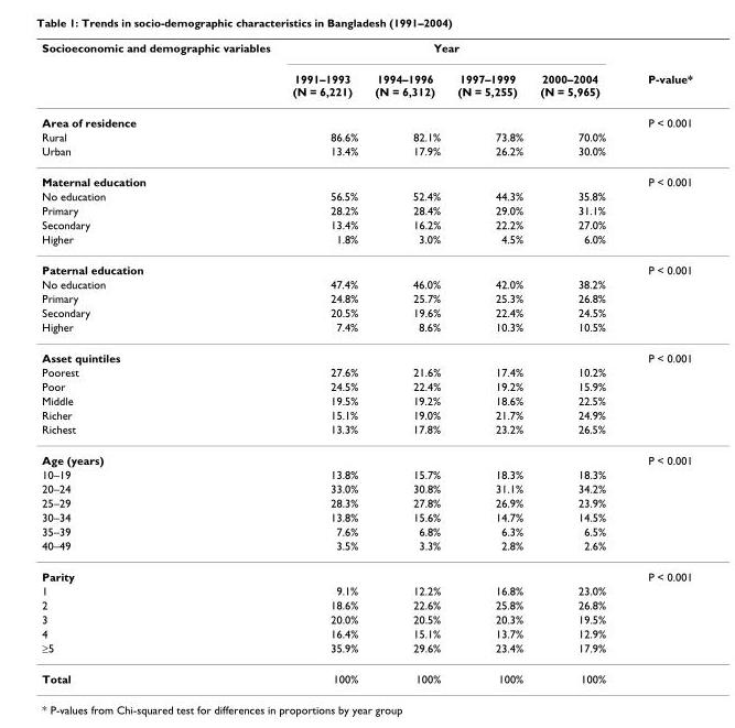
<table><thead><tr><td rowspan="2">Socioeconomic and demographic variables</td><td colspan="4">Year</td><td rowspan="2">P-value*</td></tr><tr><td>1991–1993 (N = 6,221)</td><td>1994–1996 (N = 6,312)</td><td>1997–1999 (N = 5,255)</td><td>2000–2004 (N = 5,965)</td></tr></thead><tbody><tr><td>Area of residence</td><td></td><td></td><td></td><td></td><td>P &lt; 0.001</td></tr><tr><td>Rural</td><td>86.6%</td><td>82.1%</td><td>73.8%</td><td>70.0%</td><td></td></tr><tr><td>Urban</td><td>13.4%</td><td>17.9%</td><td>26.2%</td><td>30.0%</td><td></td></tr><tr><td>Maternal education</td><td></td><td></td><td></td><td></td><td>P &lt; 0.001</td></tr><tr><td>No education</td><td>56.5%</td><td>52.4%</td><td>44.3%</td><td>35.8%</td><td></td></tr><tr><td>Primary</td><td>28.2%</td><td>28.4%</td><td>29.0%</td><td>31.1%</td><td></td></tr><tr><td>Secondary</td><td>13.4%</td><td>16.2%</td><td>22.2%</td><td>27.0%</td><td></td></tr><tr><td>Higher</td><td>1.8%</td><td>3.0%</td><td>4.5%</td><td>6.0%</td><td></td></tr><tr><td>Paternal education</td><td></td><td></td><td></td><td></td><td>P &lt; 0.001</td></tr><tr><td>No education</td><td>47.4%</td><td>46.0%</td><td>42.0%</td><td>38.2%</td><td></td></tr><tr><td>Primary</td><td>24.8%</td><td>25.7%</td><td>25.3%</td><td>26.8%</td><td></td></tr><tr><td>Secondary</td><td>20.5%</td><td>19.6%</td><td>22.4%</td><td>24.5%</td><td></td></tr><tr><td>Higher</td><td>7.4%</td><td>8.6%</td><td>10.3%</td><td>10.5%</td><td></td></tr><tr><td>Asset quintiles</td><td></td><td></td><td></td><td></td><td>P &lt; 0.001</td></tr><tr><td>Poorest</td><td>27.6%</td><td>21.6%</td><td>17.4%</td><td>10.2%</td><td></td></tr><tr><td>Poor</td><td>24.5%</td><td>22.4%</td><td>19.2%</td><td>15.9%</td><td></td></tr><tr><td>Middle</td><td>19.5%</td><td>19.2%</td><td>18.6%</td><td>22.5%</td><td></td></tr><tr><td>Richer</td><td>15.1%</td><td>19.0%</td><td>21.7%</td><td>24.9%</td><td></td></tr><tr><td>Richest</td><td>13.3%</td><td>17.8%</td><td>23.2%</td><td>26.5%</td><td></td></tr><tr><td>Age (years)</td><td></td><td></td><td></td><td></td><td>P &lt; 0.001</td></tr><tr><td>10–19</td><td>13.8%</td><td>15.7%</td><td>18.3%</td><td>18.3%</td><td></td></tr><tr><td>20–24</td><td>33.0%</td><td>30.8%</td><td>31.1%</td><td>34.2%</td><td></td></tr><tr><td>25–29</td><td>28.3%</td><td>27.8%</td><td>26.9%</td><td>23.9%</td><td></td></tr><tr><td>30–34</td><td>13.8%</td><td>15.6%</td><td>14.7%</td><td>14.5%</td><td></td></tr><tr><td>35–39</td><td>7.6%</td><td>6.8%</td><td>6.3%</td><td>6.5%</td><td></td></tr><tr><td>40–49</td><td>3.5%</td><td>3.3%</td><td>2.8%</td><td>2.6%</td><td></td></tr><tr><td>Parity</td><td></td><td></td><td></td><td></td><td>P &lt; 0.001</td></tr><tr><td>1</td><td>9.1%</td><td>12.2%</td><td>16.8%</td><td>23.0%</td><td></td></tr><tr><td>2</td><td>18.6%</td><td>22.6%</td><td>25.8%</td><td>26.8%</td><td></td></tr><tr><td>3</td><td>20.0%</td><td>20.5%</td><td>20.3%</td><td>19.5%</td><td></td></tr><tr><td>4</td><td>16.4%</td><td>15.1%</td><td>13.7%</td><td>12.9%</td><td></td></tr><tr><td>≥5</td><td>35.9%</td><td>29.6%</td><td>23.4%</td><td>17.9%</td><td></td></tr><tr><td>Total</td><td>100%</td><td>100%</td><td>100%</td><td>100%</td><td></td></tr></tbody></table>